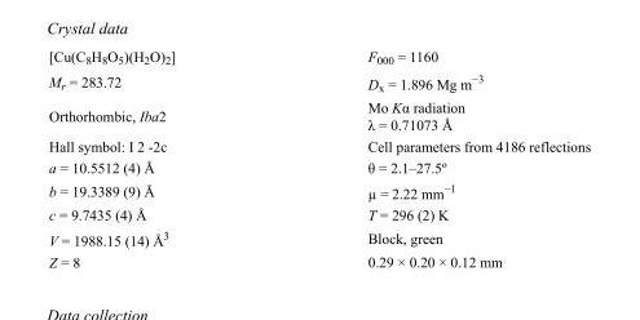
<table><tbody><tr><td>[Cu(C<sub>8</sub>H<sub>8</sub>O<sub>5</sub>)(H<sub>2</sub>O)<sub>2</sub>]</td><td>F000 = 1160</td></tr><tr><td>M<sub>r</sub> = 283.72</td><td>D<sub>x</sub> = 1.896 Mg m<sup>−3</sup></td></tr><tr><td>Orthorhombic, Iba2</td><td>Mo Kα radiation λ = 0.71073 Å</td></tr><tr><td>Hall symbol: I 2 -2c</td><td>Cell parameters from 4186 reflections</td></tr><tr><td>a = 10.5512 (4) Å</td><td>θ = 2.1–27.5º</td></tr><tr><td>b = 19.3389 (9) Å</td><td>µ = 2.22 mm<sup>−1</sup></td></tr><tr><td>c = 9.7435 (4) Å</td><td>T = 296 (2) K</td></tr><tr><td>V = 1988.15 (14) Å<sup>3</sup></td><td>Block, green</td></tr><tr><td>Z = 8</td><td>0.29 × 0.20 × 0.12 mm</td></tr></tbody></table>